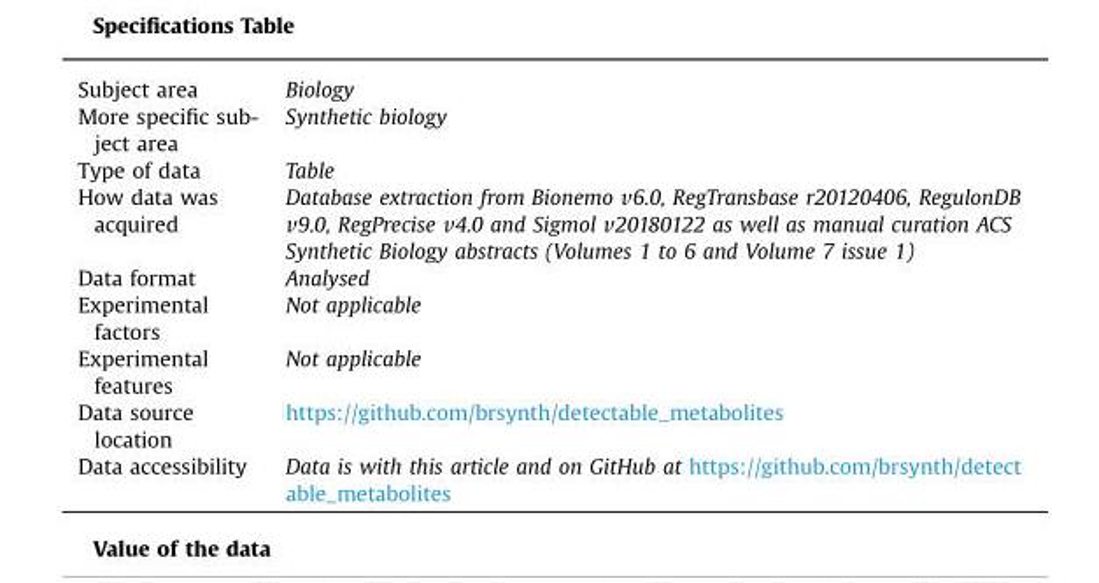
<table><tbody><tr><td>Subject area</td><td>Biology</td></tr><tr><td>More specific sub- ject area</td><td>Synthetic biology</td></tr><tr><td>Type of data</td><td>Table</td></tr><tr><td>How data was acquired</td><td>Database extraction from Bionemo v6.0, RegTransbase r20120406, RegulonDB v9.0, RegPrecise v4.0 and Sigmol v20180122 as well as manual curation ACS Synthetic Biology abstracts (Volumes 1 to 6 and Volume 7 issue 1)</td></tr><tr><td>Data format</td><td>Analysed</td></tr><tr><td>Experimental factors</td><td>Not applicable</td></tr><tr><td>Experimental features</td><td>Not applicable</td></tr><tr><td>Data source location</td><td>https://github.com/brsynth/detectable_metabolites</td></tr><tr><td>Data accessibility</td><td>Data is with this article and on GitHub at https://github.com/brsynth/detect able_metabolites</td></tr></tbody></table>